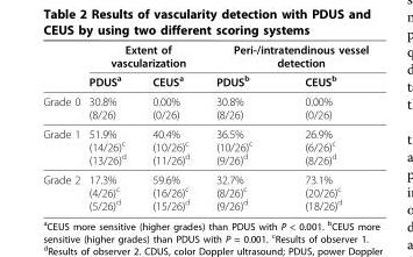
<table><thead><tr><td rowspan="2"></td><td colspan="2">Extent of vascularization</td><td colspan="2">Peri-/intratendinous vessel detection</td></tr><tr><td>PDUS<sup>a</sup></td><td>CEUS<sup>a</sup></td><td>PDUS<sup>b</sup></td><td>CEUS<sup>b</sup></td></tr></thead><tbody><tr><td>Grade 0</td><td>30.8% (8/26)</td><td>0.00% (0/26)</td><td>30.8% (8/26)</td><td>0.00% (0/26)</td></tr><tr><td>Grade 1</td><td>51.9% (14/26)<sup>c</sup> (13/26)<sup>d</sup></td><td>40.4% (10/26)<sup>c</sup> (11/26)<sup>d</sup></td><td>36.5% (10/26)<sup>c</sup> (9/26)<sup>d</sup></td><td>26.9% (6/26)<sup>c</sup> (8/26)<sup>d</sup></td></tr><tr><td>Grade 2</td><td>17.3% (4/26)<sup>c</sup> (5/26)<sup>d</sup></td><td>59.6% (16/26)<sup>c</sup> (15/26)<sup>d</sup></td><td>32.7% (8/26)<sup>c</sup> (9/26)<sup>d</sup></td><td>73.1% (20/26)<sup>c</sup> (18/26)<sup>d</sup></td></tr></tbody></table>